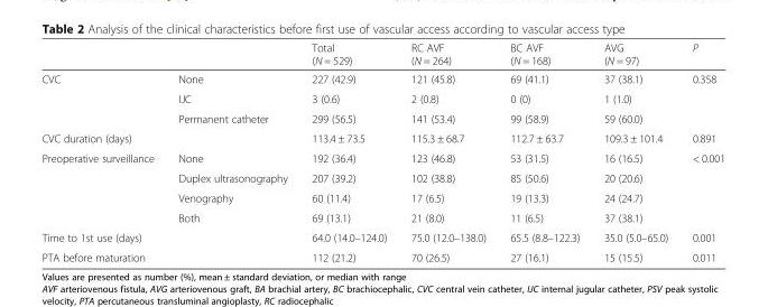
<table><thead><tr><td></td><td></td><td>Total (N = 529)</td><td>RC AVF (N = 264)</td><td>BC AVF (N = 168)</td><td>AVG (N = 97)</td><td>P</td></tr></thead><tbody><tr><td rowspan="3">CVC</td><td>None</td><td>227 (42.9)</td><td>121 (45.8)</td><td>69 (41.1)</td><td>37 (38.1)</td><td rowspan="3">0.358</td></tr><tr><td>IJC</td><td>3 (0.6)</td><td>2 (0.8)</td><td>0 (0)</td><td>1 (1.0)</td></tr><tr><td>Permanent catheter</td><td>299 (56.5)</td><td>141 (53.4)</td><td>99 (58.9)</td><td>59 (60.0)</td></tr><tr><td colspan="2">CVC duration (days)</td><td>113.4 ± 73.5</td><td>115.3 ± 68.7</td><td>112.7 ± 63.7</td><td>109.3 ± 101.4</td><td>0.891</td></tr><tr><td rowspan="4">Preoperative surveillance</td><td>None</td><td>192 (36.4)</td><td>123 (46.8)</td><td>53 (31.5)</td><td>16 (16.5)</td><td rowspan="4">&lt; 0.001</td></tr><tr><td>Duplex ultrasonography</td><td>207 (39.2)</td><td>102 (38.8)</td><td>85 (50.6)</td><td>20 (20.6)</td></tr><tr><td>Venography</td><td>60 (11.4)</td><td>17 (6.5)</td><td>19 (13.3)</td><td>24 (24.7)</td></tr><tr><td>Both</td><td>69 (13.1)</td><td>21 (8.0)</td><td>11 (6.5)</td><td>37 (38.1)</td></tr><tr><td colspan="2">Time to 1st use (days)</td><td>64.0 (14.0–124.0)</td><td>75.0 (12.0–138.0)</td><td>65.5 (8.8–122.3)</td><td>35.0 (5.0–65.0)</td><td>0.001</td></tr><tr><td colspan="2">PTA before maturation</td><td>112 (21.2)</td><td>70 (26.5)</td><td>27 (16.1)</td><td>15 (15.5)</td><td>0.011</td></tr></tbody></table>